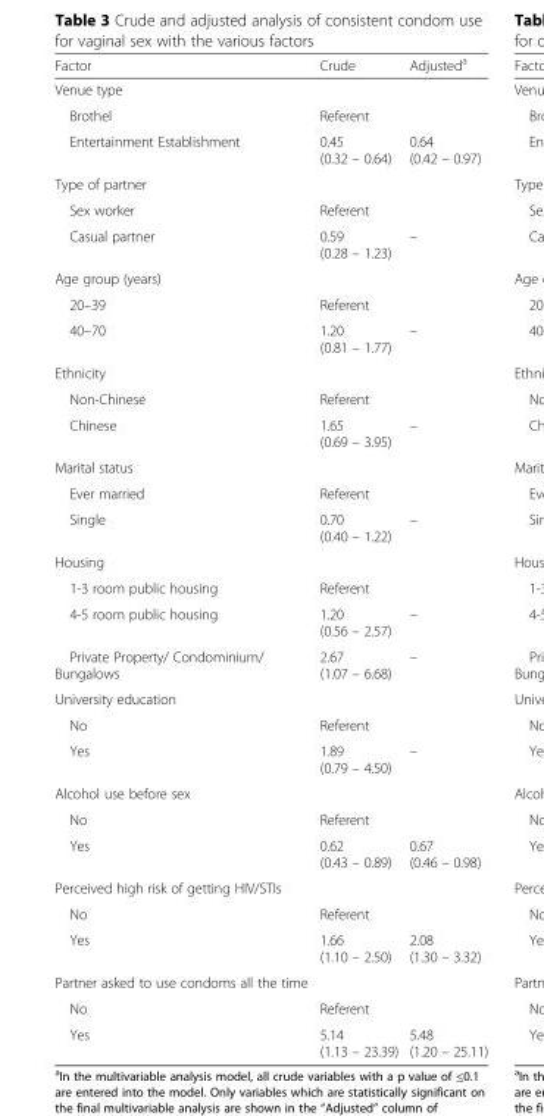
<table><thead><tr><td>Factor</td><td>Crude</td><td>Adjusted<sup>a</sup></td></tr></thead><tbody><tr><td colspan="3">Venue type</td></tr><tr><td>Brothel</td><td>Referent</td><td></td></tr><tr><td>Entertainment Establishment</td><td>0.45 (0.32 – 0.64)</td><td>0.64 (0.42 – 0.97)</td></tr><tr><td colspan="3">Type of partner</td></tr><tr><td>Sex worker</td><td>Referent</td><td></td></tr><tr><td>Casual partner</td><td>0.59 (0.28 – 1.23)</td><td>–</td></tr><tr><td colspan="3">Age group (years)</td></tr><tr><td>20–39</td><td>Referent</td><td></td></tr><tr><td>40–70</td><td>1.20 (0.81 – 1.77)</td><td>–</td></tr><tr><td colspan="3">Ethnicity</td></tr><tr><td>Non-Chinese</td><td>Referent</td><td></td></tr><tr><td>Chinese</td><td>1.65 (0.69 – 3.95)</td><td>–</td></tr><tr><td colspan="3">Marital status</td></tr><tr><td>Ever married</td><td>Referent</td><td></td></tr><tr><td>Single</td><td>0.70 (0.40 – 1.22)</td><td>–</td></tr><tr><td colspan="3">Housing</td></tr><tr><td>1-3 room public housing</td><td>Referent</td><td></td></tr><tr><td>4-5 room public housing</td><td>1.20 (0.56 – 2.57)</td><td>–</td></tr><tr><td>Private Property/ Condominium/ Bungalows</td><td>2.67 (1.07 – 6.68)</td><td>–</td></tr><tr><td colspan="3">University education</td></tr><tr><td>No</td><td>Referent</td><td></td></tr><tr><td>Yes</td><td>1.89 (0.79 – 4.50)</td><td>–</td></tr><tr><td colspan="3">Alcohol use before sex</td></tr><tr><td>No</td><td>Referent</td><td></td></tr><tr><td>Yes</td><td>0.62 (0.43 – 0.89)</td><td>0.67 (0.46 – 0.98)</td></tr><tr><td colspan="3">Perceived high risk of getting HIV/STIs</td></tr><tr><td>No</td><td>Referent</td><td></td></tr><tr><td>Yes</td><td>1.66 (1.10 – 2.50)</td><td>2.08 (1.30 – 3.32)</td></tr><tr><td colspan="3">Partner asked to use condoms all the time</td></tr><tr><td>No</td><td>Referent</td><td></td></tr><tr><td>Yes</td><td>5.14 (1.13 – 23.39)</td><td>5.48 (1.20 – 25.11)</td></tr></tbody></table>